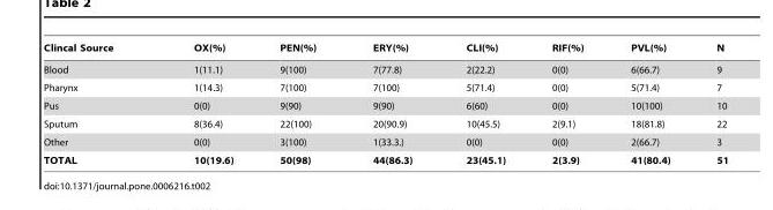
<table><thead><tr><td>Clincal Source</td><td>OX(%)</td><td>PEN(%)</td><td>ERY(%)</td><td>CLI(%)</td><td>RIF(%)</td><td>PVL(%)</td><td>N</td></tr></thead><tbody><tr><td>Blood</td><td>1(11.1)</td><td>9(100)</td><td>7(77.8)</td><td>2(22.2)</td><td>0(0)</td><td>6(66.7)</td><td>9</td></tr><tr><td>Pharynx</td><td>1(14.3)</td><td>7(100)</td><td>7(100)</td><td>5(71.4)</td><td>0(0)</td><td>5(71.4)</td><td>7</td></tr><tr><td>Pus</td><td>0(0)</td><td>9(90)</td><td>9(90)</td><td>6(60)</td><td>0(0)</td><td>10(100)</td><td>10</td></tr><tr><td>Sputum</td><td>8(36.4)</td><td>22(100)</td><td>20(90.9)</td><td>10(45.5)</td><td>2(9.1)</td><td>18(81.8)</td><td>22</td></tr><tr><td>Other</td><td>0(0)</td><td>3(100)</td><td>1(33.3.)</td><td>0(0)</td><td>0(0)</td><td>2(66.7)</td><td>3</td></tr><tr><td>TOTAL</td><td>10(19.6)</td><td>50(98)</td><td>44(86.3)</td><td>23(45.1)</td><td>2(3.9)</td><td>41(80.4)</td><td>51</td></tr></tbody></table>